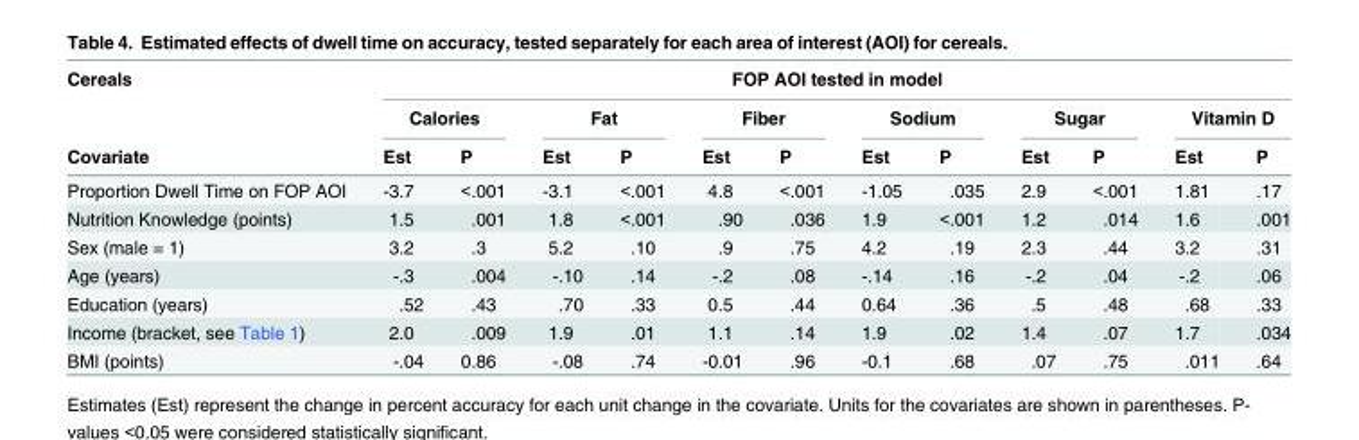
<table><thead><tr><td rowspan="3">Cereals Covariate</td><td colspan="12">FOP AOI tested in model</td></tr><tr><td colspan="2">Calories</td><td colspan="2">Fat</td><td colspan="2">Fiber</td><td colspan="2">Sodium</td><td colspan="2">Sugar</td><td colspan="2">Vitamin D</td></tr><tr><td>Est</td><td>P</td><td>Est</td><td>P</td><td>Est</td><td>P</td><td>Est</td><td>P</td><td>Est</td><td>P</td><td>Est</td><td>P</td></tr></thead><tbody><tr><td>Proportion Dwell Time on FOP AOI</td><td>-3.7</td><td>&lt;.001</td><td>-3.1</td><td>&lt;.001</td><td>4.8</td><td>&lt;.001</td><td>-1.05</td><td>.035</td><td>2.9</td><td>&lt;.001</td><td>1.81</td><td>.17</td></tr><tr><td>Nutrition Knowledge (points)</td><td>1.5</td><td>.001</td><td>1.8</td><td>&lt;.001</td><td>.90</td><td>.036</td><td>1.9</td><td>&lt;.001</td><td>1.2</td><td>.014</td><td>1.6</td><td>.001</td></tr><tr><td>Sex (male = 1)</td><td>3.2</td><td>.3</td><td>5.2</td><td>.10</td><td>.9</td><td>.75</td><td>4.2</td><td>.19</td><td>2.3</td><td>.44</td><td>3.2</td><td>.31</td></tr><tr><td>Age (years)</td><td>-.3</td><td>.004</td><td>-.10</td><td>.14</td><td>-.2</td><td>.08</td><td>-.14</td><td>.16</td><td>-.2</td><td>.04</td><td>-.2</td><td>.06</td></tr><tr><td>Education (years)</td><td>.52</td><td>.43</td><td>.70</td><td>.33</td><td>0.5</td><td>.44</td><td>0.64</td><td>.36</td><td>.5</td><td>.48</td><td>.68</td><td>.33</td></tr><tr><td>Income (bracket, see Table 1)</td><td>2.0</td><td>.009</td><td>1.9</td><td>.01</td><td>1.1</td><td>.14</td><td>1.9</td><td>.02</td><td>1.4</td><td>.07</td><td>1.7</td><td>.034</td></tr><tr><td>BMI (points)</td><td>-.04</td><td>0.86</td><td>-.08</td><td>.74</td><td>-0.01</td><td>.96</td><td>-0.1</td><td>.68</td><td>.07</td><td>.75</td><td>.011</td><td>.64</td></tr></tbody></table>